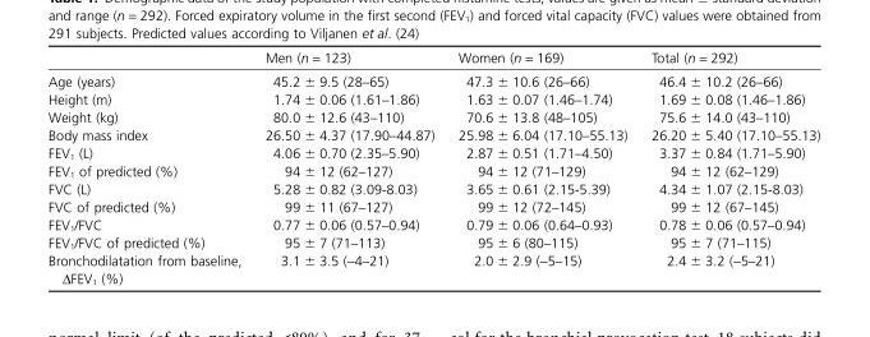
<table><thead><tr><td></td><td>Men (n = 123)</td><td>Women (n = 169)</td><td>Total (n = 292)</td></tr></thead><tbody><tr><td>Age (years)</td><td>45.2 ± 9.5 (28–65)</td><td>47.3 ± 10.6 (26–66)</td><td>46.4 ± 10.2 (26–66)</td></tr><tr><td>Height (m)</td><td>1.74 ± 0.06 (1.61–1.86)</td><td>1.63 ± 0.07 (1.46–1.74)</td><td>1.69 ± 0.08 (1.46–1.86)</td></tr><tr><td>Weight (kg)</td><td>80.0 ± 12.6 (43–110)</td><td>70.6 ± 13.8 (48–105)</td><td>75.6 ± 14.0 (43–110)</td></tr><tr><td>Body mass index</td><td>26.50 ± 4.37 (17.90–44.87)</td><td>25.98 ± 6.04 (17.10–55.13)</td><td>26.20 ± 5.40 (17.10–55.13)</td></tr><tr><td>FEV<sub>1</sub> (L)</td><td>4.06 ± 0.70 (2.35–5.90)</td><td>2.87 ± 0.51 (1.71–4.50)</td><td>3.37 ± 0.84 (1.71–5.90)</td></tr><tr><td>FEV<sub>1</sub> of predicted (%)</td><td>94 ± 12 (62–127)</td><td>94 ± 12 (71–129)</td><td>94 ± 12 (62–129)</td></tr><tr><td>FVC (L)</td><td>5.28 ± 0.82 (3.09-8.03)</td><td>3.65 ± 0.61 (2.15-5.39)</td><td>4.34 ± 1.07 (2.15-8.03)</td></tr><tr><td>FVC of predicted (%)</td><td>99 ± 11 (67–127)</td><td>99 ± 12 (72–145)</td><td>99 ± 12 (67–145)</td></tr><tr><td>FEV<sub>1</sub>/FVC</td><td>0.77 ± 0.06 (0.57–0.94)</td><td>0.79 ± 0.06 (0.64–0.93)</td><td>0.78 ± 0.06 (0.57–0.94)</td></tr><tr><td>FEV<sub>1</sub>/FVC of predicted (%)</td><td>95 ± 7 (71–113)</td><td>95 ± 6 (80–115)</td><td>95 ± 7 (71–115)</td></tr><tr><td>Bronchodilatation from baseline, ΔFEV<sub>1</sub> (%)</td><td>3.1 ± 3.5 (-4–21)</td><td>2.0 ± 2.9 (-5–15)</td><td>2.4 ± 3.2 (-5–21)</td></tr></tbody></table>